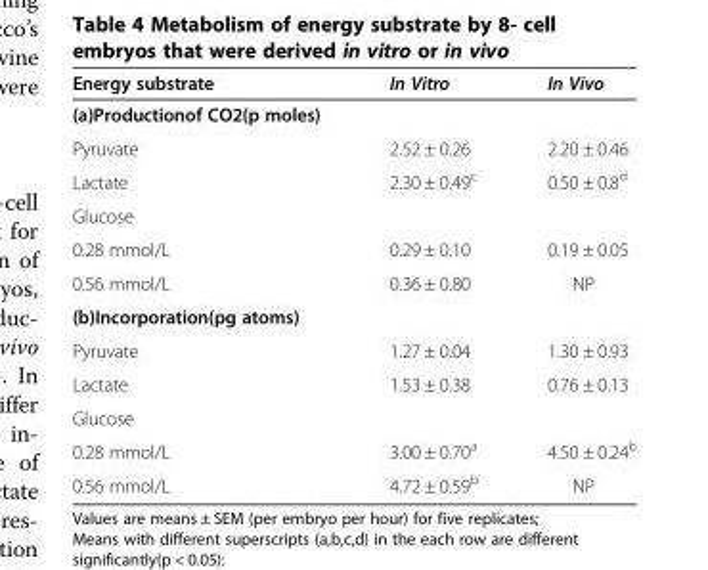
<table><thead><tr><td>Energy substrate</td><td>In Vitro</td><td>In Vivo</td></tr></thead><tbody><tr><td colspan="3">(a)Productionof CO2(p moles)</td></tr><tr><td>Pyruvate</td><td>2.52 ± 0.26</td><td>2.20 ± 0.46</td></tr><tr><td>Lactate</td><td>2.30 ± 0.49<sup>c</sup></td><td>0.50 ± 0.8<sup>d</sup></td></tr><tr><td colspan="3">Glucose</td></tr><tr><td>0.28 mmol/L</td><td>0.29 ± 0.10</td><td>0.19 ± 0.05</td></tr><tr><td>0.56 mmol/L</td><td>0.36 ± 0.80</td><td>NP</td></tr><tr><td colspan="3">(b)Incorporation(pg atoms)</td></tr><tr><td>Pyruvate</td><td>1.27 ± 0.04</td><td>1.30 ± 0.93</td></tr><tr><td>Lactate</td><td>1.53 ± 0.38</td><td>0.76 ± 0.13</td></tr><tr><td colspan="3">Glucose</td></tr><tr><td>0.28 mmol/L</td><td>3.00 ± 0.70<sup>a</sup></td><td>4.50 ± 0.24<sup>b</sup></td></tr><tr><td>0.56 mmol/L</td><td>4.72 ± 0.59<sup>b</sup></td><td>NP</td></tr></tbody></table>